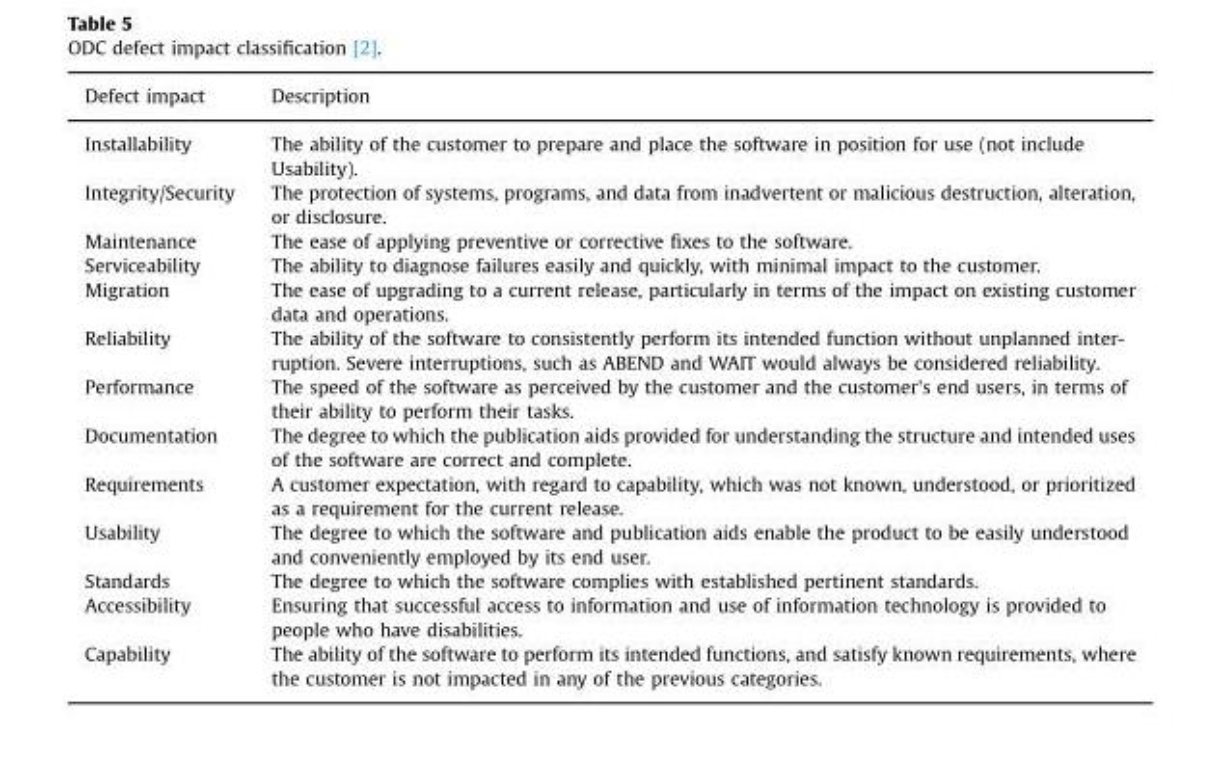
<table><thead><tr><td>Defect impact</td><td>Description</td></tr></thead><tbody><tr><td>Installability</td><td>The ability of the customer to prepare and place the software in position for use (not include Usability).</td></tr><tr><td>Integrity/Security</td><td>The protection of systems, programs, and data from inadvertent or malicious destruction, alteration, or disclosure.</td></tr><tr><td>Maintenance</td><td>The ease of applying preventive or corrective fixes to the software.</td></tr><tr><td>Serviceability</td><td>The ability to diagnose failures easily and quickly, with minimal impact to the customer.</td></tr><tr><td>Migration</td><td>The ease of upgrading to a current release, particularly in terms of the impact on existing customer data and operations.</td></tr><tr><td>Reliability</td><td>The ability of the software to consistently perform its intended function without unplanned inter- ruption. Severe interruptions, such as ABEND and WAIT would always be considered reliability.</td></tr><tr><td>Performance</td><td>The speed of the software as perceived by the customer and the customer&#x27;s end users, in terms of their ability to perform their tasks.</td></tr><tr><td>Documentation</td><td>The degree to which the publication aids provided for understanding the structure and intended uses of the software are correct and complete.</td></tr><tr><td>Requirements</td><td>A customer expectation, with regard to capability, which was not known, understood, or prioritized as a requirement for the current release.</td></tr><tr><td>Usability</td><td>The degree to which the software and publication aids enable the product to be easily understood and conveniently employed by its end user.</td></tr><tr><td>Standards</td><td>The degree to which the software complies with established pertinent standards.</td></tr><tr><td>Accessibility</td><td>Ensuring that successful access to information and use of information technology is provided to people who have disabilities.</td></tr><tr><td>Capability</td><td>The ability of the software to perform its intended functions, and satisfy known requirements, where the customer is not impacted in any of the previous categories.</td></tr></tbody></table>